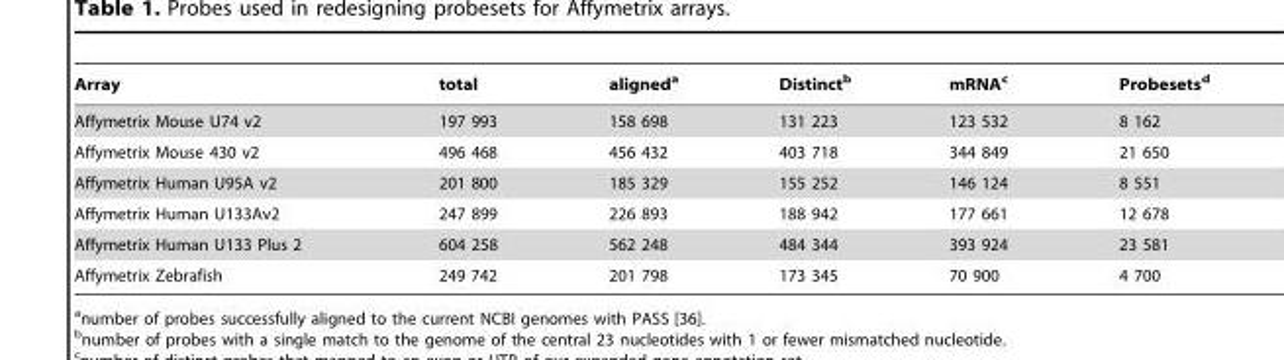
<table><thead><tr><td>Array</td><td>total</td><td>aligned<sup>a</sup></td><td>Distinct<sup>b</sup></td><td>mRNA<sup>c</sup></td><td>Probesets<sup>d</sup></td></tr></thead><tbody><tr><td>Affymetrix Mouse U74 v2</td><td>197 993</td><td>158 698</td><td>131 223</td><td>123 532</td><td>8 162</td></tr><tr><td>Affymetrix Mouse 430 v2</td><td>496 468</td><td>456 432</td><td>403 718</td><td>344 849</td><td>21 650</td></tr><tr><td>Affymetrix Human U95A v2</td><td>201 800</td><td>185 329</td><td>155 252</td><td>146 124</td><td>8 551</td></tr><tr><td>Affymetrix Human U133Av2</td><td>247 899</td><td>226 893</td><td>188 942</td><td>177 661</td><td>12 678</td></tr><tr><td>Affymetrix Human U133 Plus 2</td><td>604 258</td><td>562 248</td><td>484 344</td><td>393 924</td><td>23 581</td></tr><tr><td>Affymetrix Zebrafish</td><td>249 742</td><td>201 798</td><td>173 345</td><td>70 900</td><td>4 700</td></tr></tbody></table>